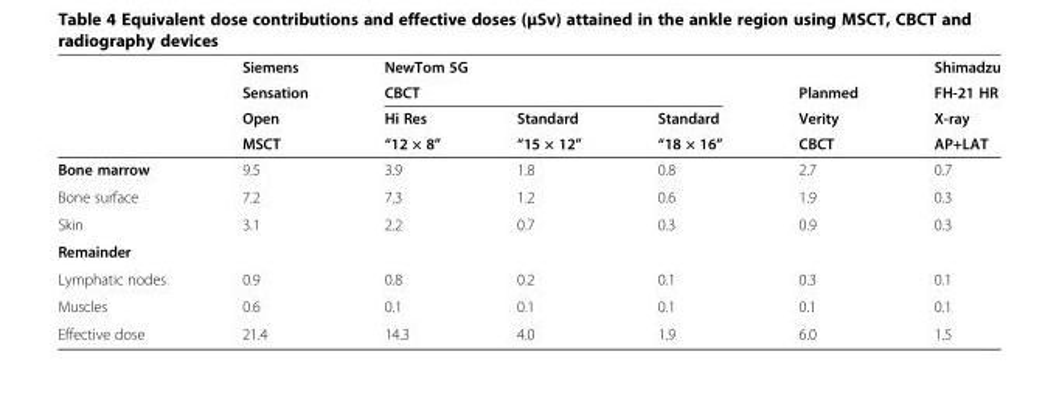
<table><thead><tr><td rowspan="4"></td><td rowspan="4">Siemens Sensation Open MSCT</td><td rowspan="2" colspan="3">NewTom 5G CBCT</td><td rowspan="4">Planmed Verity CBCT</td><td rowspan="4">Shimadzu FH-21 HR X-ray AP+LAT</td></tr><tr></tr><tr><td rowspan="2">Hi Res “12 × 8”</td><td rowspan="2">Standard “15 × 12”</td><td rowspan="2">Standard “18 × 16”</td></tr><tr></tr></thead><tbody><tr><td>Bone marrow</td><td>9.5</td><td>3.9</td><td>1.8</td><td>0.8</td><td>2.7</td><td>0.7</td></tr><tr><td>Bone surface</td><td>7.2</td><td>7.3</td><td>1.2</td><td>0.6</td><td>1.9</td><td>0.3</td></tr><tr><td>Skin</td><td>3.1</td><td>2.2</td><td>0.7</td><td>0.3</td><td>0.9</td><td>0.3</td></tr><tr><td colspan="7">Remainder</td></tr><tr><td>Lymphatic nodes</td><td>0.9</td><td>0.8</td><td>0.2</td><td>0.1</td><td>0.3</td><td>0.1</td></tr><tr><td>Muscles</td><td>0.6</td><td>0.1</td><td>0.1</td><td>0.1</td><td>0.1</td><td>0.1</td></tr><tr><td>Effective dose</td><td>21.4</td><td>14.3</td><td>4.0</td><td>1.9</td><td>6.0</td><td>1.5</td></tr></tbody></table>